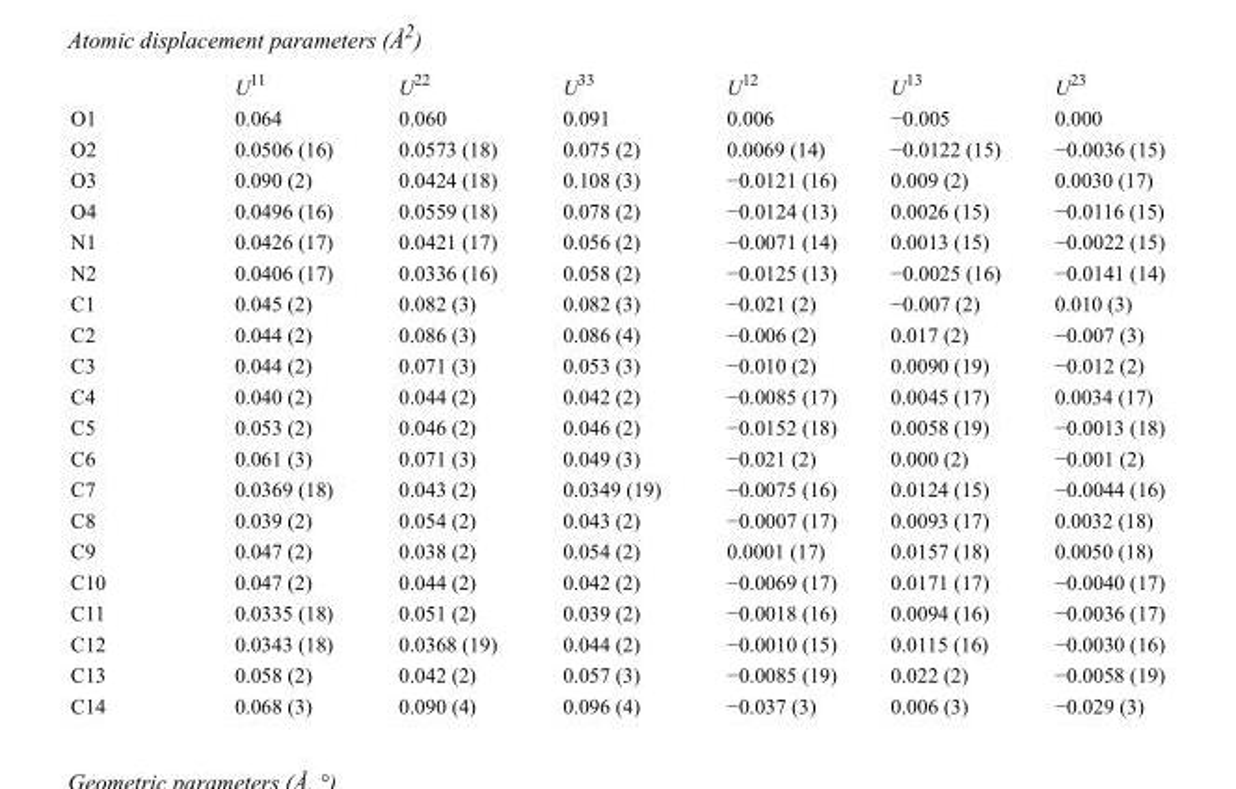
<table><thead><tr><td></td><td>U<sup>11</sup></td><td>U<sup>22</sup></td><td>U<sup>33</sup></td><td>U<sup>12</sup></td><td>U<sup>13</sup></td><td>U<sup>23</sup></td></tr></thead><tbody><tr><td>O1</td><td>0.064</td><td>0.060</td><td>0.091</td><td>0.006</td><td>−0.005</td><td>0.000</td></tr><tr><td>O2</td><td>0.0506 (16)</td><td>0.0573 (18)</td><td>0.075 (2)</td><td>0.0069 (14)</td><td>−0.0122 (15)</td><td>−0.0036 (15)</td></tr><tr><td>O3</td><td>0.090 (2)</td><td>0.0424 (18)</td><td>0.108 (3)</td><td>−0.0121 (16)</td><td>0.009 (2)</td><td>0.0030 (17)</td></tr><tr><td>O4</td><td>0.0496 (16)</td><td>0.0559 (18)</td><td>0.078 (2)</td><td>−0.0124 (13)</td><td>0.0026 (15)</td><td>−0.0116 (15)</td></tr><tr><td>N1</td><td>0.0426 (17)</td><td>0.0421 (17)</td><td>0.056 (2)</td><td>−0.0071 (14)</td><td>0.0013 (15)</td><td>−0.0022 (15)</td></tr><tr><td>N2</td><td>0.0406 (17)</td><td>0.0336 (16)</td><td>0.058 (2)</td><td>−0.0125 (13)</td><td>−0.0025 (16)</td><td>−0.0141 (14)</td></tr><tr><td>C1</td><td>0.045 (2)</td><td>0.082 (3)</td><td>0.082 (3)</td><td>−0.021 (2)</td><td>−0.007 (2)</td><td>0.010 (3)</td></tr><tr><td>C2</td><td>0.044 (2)</td><td>0.086 (3)</td><td>0.086 (4)</td><td>−0.006 (2)</td><td>0.017 (2)</td><td>−0.007 (3)</td></tr><tr><td>C3</td><td>0.044 (2)</td><td>0.071 (3)</td><td>0.053 (3)</td><td>−0.010 (2)</td><td>0.0090 (19)</td><td>−0.012 (2)</td></tr><tr><td>C4</td><td>0.040 (2)</td><td>0.044 (2)</td><td>0.042 (2)</td><td>−0.0085 (17)</td><td>0.0045 (17)</td><td>0.0034 (17)</td></tr><tr><td>C5</td><td>0.053 (2)</td><td>0.046 (2)</td><td>0.046 (2)</td><td>−0.0152 (18)</td><td>0.0058 (19)</td><td>−0.0013 (18)</td></tr><tr><td>C6</td><td>0.061 (3)</td><td>0.071 (3)</td><td>0.049 (3)</td><td>−0.021 (2)</td><td>0.000 (2)</td><td>−0.001 (2)</td></tr><tr><td>C7</td><td>0.0369 (18)</td><td>0.043 (2)</td><td>0.0349 (19)</td><td>−0.0075 (16)</td><td>0.0124 (15)</td><td>−0.0044 (16)</td></tr><tr><td>C8</td><td>0.039 (2)</td><td>0.054 (2)</td><td>0.043 (2)</td><td>−0.0007 (17)</td><td>0.0093 (17)</td><td>0.0032 (18)</td></tr><tr><td>C9</td><td>0.047 (2)</td><td>0.038 (2)</td><td>0.054 (2)</td><td>0.0001 (17)</td><td>0.0157 (18)</td><td>0.0050 (18)</td></tr><tr><td>C10</td><td>0.047 (2)</td><td>0.044 (2)</td><td>0.042 (2)</td><td>−0.0069 (17)</td><td>0.0171 (17)</td><td>−0.0040 (17)</td></tr><tr><td>C11</td><td>0.0335 (18)</td><td>0.051 (2)</td><td>0.039 (2)</td><td>−0.0018 (16)</td><td>0.0094 (16)</td><td>−0.0036 (17)</td></tr><tr><td>C12</td><td>0.0343 (18)</td><td>0.0368 (19)</td><td>0.044 (2)</td><td>−0.0010 (15)</td><td>0.0115 (16)</td><td>−0.0030 (16)</td></tr><tr><td>C13</td><td>0.058 (2)</td><td>0.042 (2)</td><td>0.057 (3)</td><td>−0.0085 (19)</td><td>0.022 (2)</td><td>−0.0058 (19)</td></tr><tr><td>C14</td><td>0.068 (3)</td><td>0.090 (4)</td><td>0.096 (4)</td><td>−0.037 (3)</td><td>0.006 (3)</td><td>−0.029 (3)</td></tr></tbody></table>